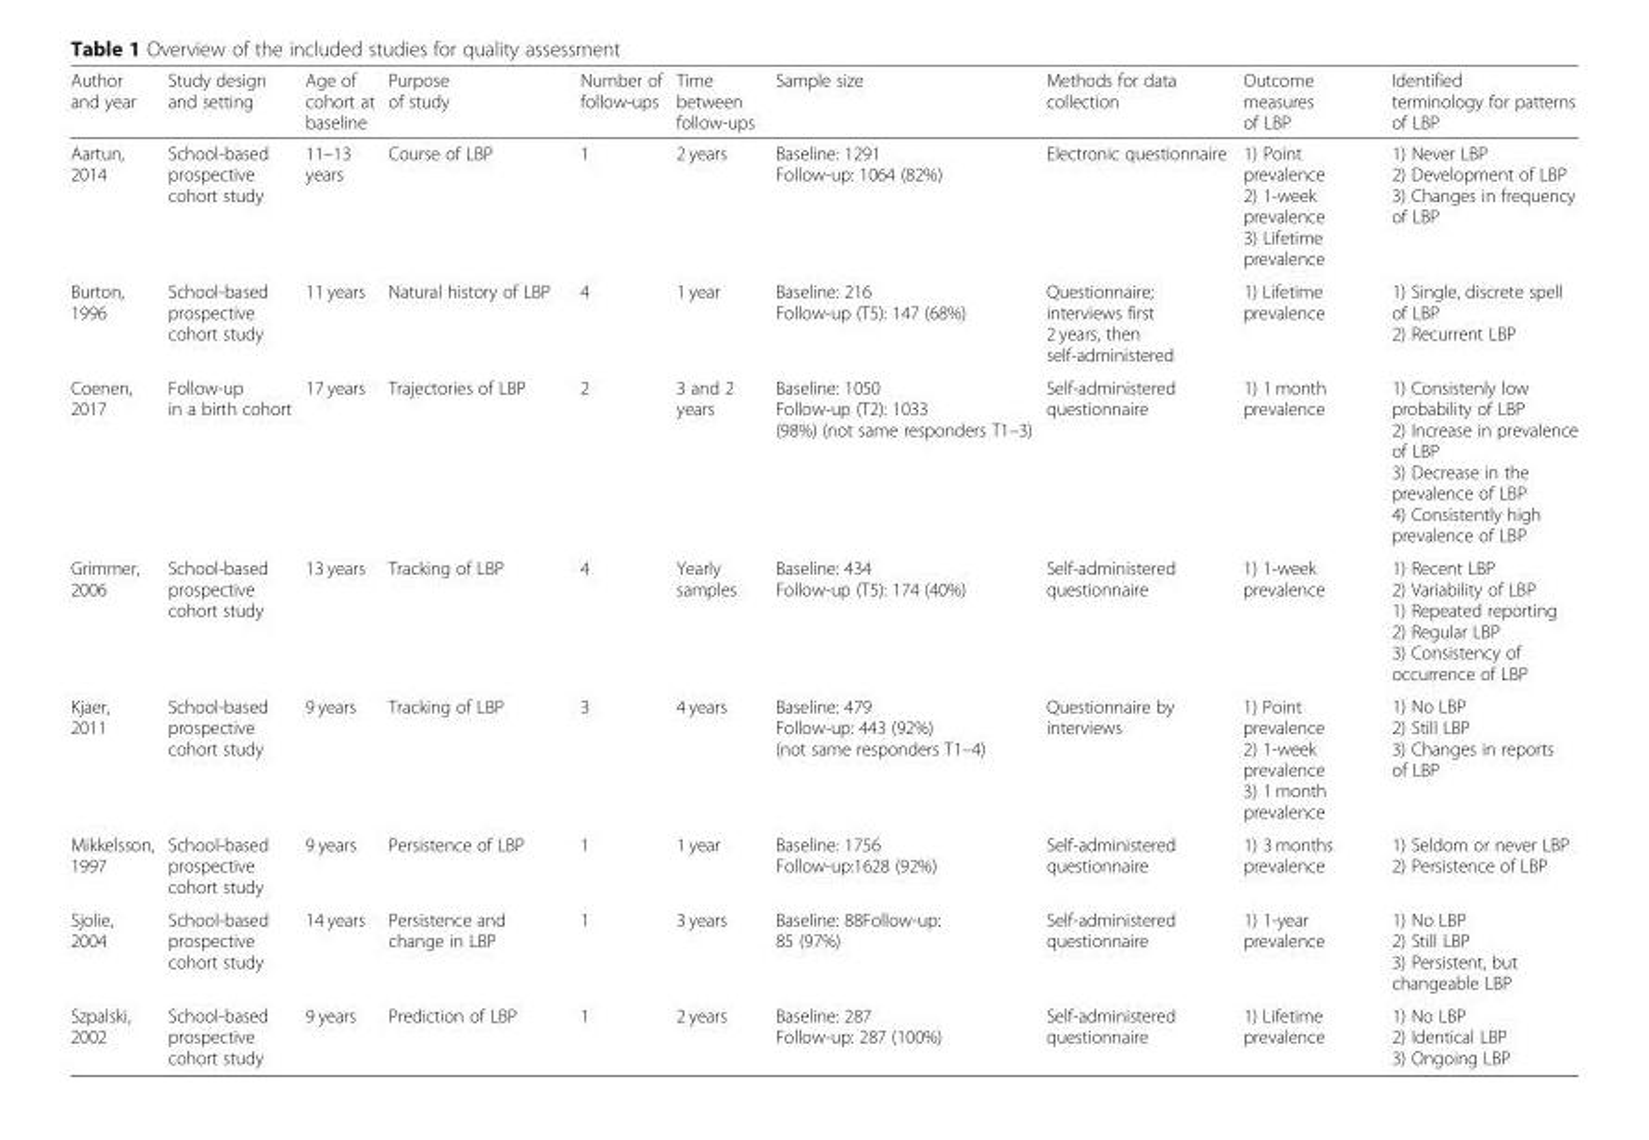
<table><thead><tr><td>Author and year</td><td>Study design and setting</td><td>Age of cohort at baseline</td><td>Purpose of study</td><td>Number of follow-ups</td><td>Time between follow-ups</td><td>Sample size</td><td>Methods for data collection</td><td>Outcome measures of LBP</td><td>Identified terminology for patterns of LBP</td></tr></thead><tbody><tr><td>Aartun, 2014</td><td>School-based prospective cohort study</td><td>11–13 years</td><td>Course of LBP</td><td>1</td><td>2 years</td><td>Baseline: 1291 Follow-up: 1064 (82%)</td><td>Electronic questionnaire</td><td>1) Point prevalence 2) 1-week prevalence 3) Lifetime prevalence</td><td>1) Never LBP 2) Development of LBP 3) Changes in frequency of LBP</td></tr><tr><td>Burton, 1996</td><td>School-based prospective cohort study</td><td>11 years</td><td>Natural history of LBP</td><td>4</td><td>1 year</td><td>Baseline: 216 Follow-up (T5): 147 (68%)</td><td>Questionnaire; interviews first 2 years, then self-administered</td><td>1) Lifetime prevalence</td><td>1) Single, discrete spell of LBP 2) Recurrent LBP</td></tr><tr><td>Coenen, 2017</td><td>Follow-up in a birth cohort</td><td>17 years</td><td>Trajectories of LBP</td><td>2</td><td>3 and 2 years</td><td>Baseline: 1050 Follow-up (T2): 1033 (98%) (not same responders T1–3)</td><td>Self-administered questionnaire</td><td>1) 1 month prevalence</td><td>1) Consistenly low probability of LBP 2) Increase in prevalence of LBP 3) Decrease in the prevalence of LBP 4) Consistently high prevalence of LBP</td></tr><tr><td>Grimmer, 2006</td><td>School-based prospective cohort study</td><td>13 years</td><td>Tracking of LBP</td><td>4</td><td>Yearly samples</td><td>Baseline: 434 Follow-up (T5): 174 (40%)</td><td>Self-administered questionnaire</td><td>1) 1-week prevalence</td><td>1) Recent LBP 2) Variability of LBP 1) Repeated reporting 2) Regular LBP 3) Consistency of occurrence of LBP</td></tr><tr><td>Kjaer, 2011</td><td>School-based prospective cohort study</td><td>9 years</td><td>Tracking of LBP</td><td>3</td><td>4 years</td><td>Baseline: 479 Follow-up: 443 (92%) (not same responders T1–4)</td><td>Questionnaire by interviews</td><td>1) Point prevalence 2) 1-week prevalence 3) 1 month prevalence</td><td>1) No LBP 2) Still LBP 3) Changes in reports of LBP</td></tr><tr><td>Mikkelsson, 1997</td><td>School-based prospective cohort study</td><td>9 years</td><td>Persistence of LBP</td><td>1</td><td>1 year</td><td>Baseline: 1756 Follow-up:1628 (92%)</td><td>Self-administered questionnaire</td><td>1) 3 months prevalence</td><td>1) Seldom or never LBP 2) Persistence of LBP</td></tr><tr><td>Sjolie, 2004</td><td>School-based prospective cohort study</td><td>14 years</td><td>Persistence and change in LBP</td><td>1</td><td>3 years</td><td>Baseline: 88Follow-up: 85 (97%)</td><td>Self-administered questionnaire</td><td>1) 1-year prevalence</td><td>1) No LBP 2) Still LBP 3) Persistent, but changeable LBP</td></tr><tr><td>Szpalski, 2002</td><td>School-based prospective cohort study</td><td>9 years</td><td>Prediction of LBP</td><td>1</td><td>2 years</td><td>Baseline: 287 Follow-up: 287 (100%)</td><td>Self-administered questionnaire</td><td>1) Lifetime prevalence</td><td>1) No LBP 2) Identical LBP 3) Ongoing LBP</td></tr></tbody></table>